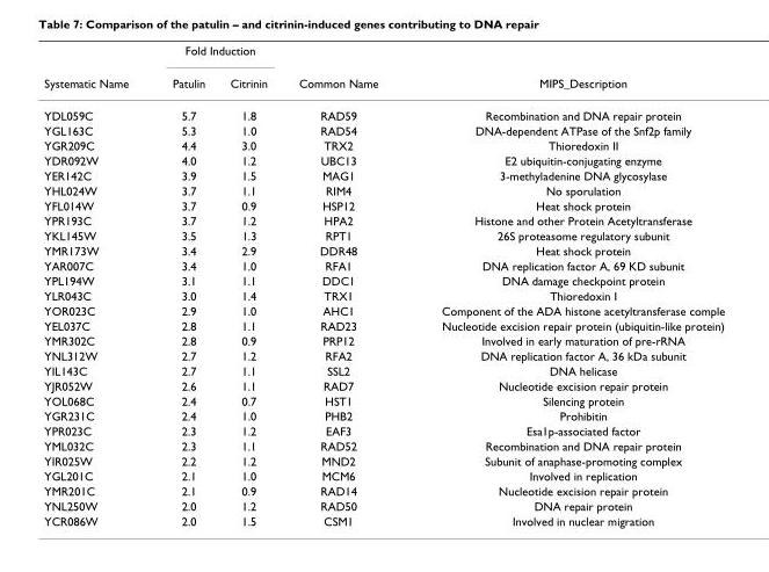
<table><thead><tr><td rowspan="2">Systematic Name</td><td colspan="2">Fold Induction</td><td rowspan="2">Common Name</td><td rowspan="2">MIPS_Description</td></tr><tr><td>Patulin</td><td>Citrinin</td></tr></thead><tbody><tr><td>YDL059C</td><td>5.7</td><td>1.8</td><td>RAD59</td><td>Recombination and DNA repair protein</td></tr><tr><td>YGL163C</td><td>5.3</td><td>1.0</td><td>RAD54</td><td>DNA-dependent ATPase of the Snf2p family</td></tr><tr><td>YGR209C</td><td>4.4</td><td>3.0</td><td>TRX2</td><td>Thioredoxin II</td></tr><tr><td>YDR092W</td><td>4.0</td><td>1.2</td><td>UBC13</td><td>E2 ubiquitin-conjugating enzyme</td></tr><tr><td>YER142C</td><td>3.9</td><td>1.5</td><td>MAG1</td><td>3-methyladenine DNA glycosylase</td></tr><tr><td>YHL024W</td><td>3.7</td><td>1.1</td><td>RIM4</td><td>No sporulation</td></tr><tr><td>YFL014W</td><td>3.7</td><td>0.9</td><td>HSP12</td><td>Heat shock protein</td></tr><tr><td>YPR193C</td><td>3.7</td><td>1.2</td><td>HPA2</td><td>Histone and other Protein Acetyltransferase</td></tr><tr><td>YKL145W</td><td>3.5</td><td>1.3</td><td>RPT1</td><td>26S proteasome regulatory subunit</td></tr><tr><td>YMR173W</td><td>3.4</td><td>2.9</td><td>DDR48</td><td>Heat shock protein</td></tr><tr><td>YAR007C</td><td>3.4</td><td>1.0</td><td>RFA1</td><td>DNA replication factor A, 69 KD subunit</td></tr><tr><td>YPL194W</td><td>3.1</td><td>1.1</td><td>DDC1</td><td>DNA damage checkpoint protein</td></tr><tr><td>YLR043C</td><td>3.0</td><td>1.4</td><td>TRX1</td><td>Thioredoxin I</td></tr><tr><td>YOR023C</td><td>2.9</td><td>1.0</td><td>AHC1</td><td>Component of the ADA histone acetyltransferase comple</td></tr><tr><td>YEL037C</td><td>2.8</td><td>1.1</td><td>RAD23</td><td>Nucleotide excision repair protein (ubiquitin-like protein)</td></tr><tr><td>YMR302C</td><td>2.8</td><td>0.9</td><td>PRP12</td><td>Involved in early maturation of pre-rRNA</td></tr><tr><td>YNL312W</td><td>2.7</td><td>1.2</td><td>RFA2</td><td>DNA replication factor A, 36 kDa subunit</td></tr><tr><td>YIL143C</td><td>2.7</td><td>1.1</td><td>SSL2</td><td>DNA helicase</td></tr><tr><td>YJR052W</td><td>2.6</td><td>1.1</td><td>RAD7</td><td>Nucleotide excision repair protein</td></tr><tr><td>YOL068C</td><td>2.4</td><td>0.7</td><td>HST1</td><td>Silencing protein</td></tr><tr><td>YGR231C</td><td>2.4</td><td>1.0</td><td>PHB2</td><td>Prohibitin</td></tr><tr><td>YPR023C</td><td>2.3</td><td>1.2</td><td>EAF3</td><td>Esa1p-associated factor</td></tr><tr><td>YML032C</td><td>2.3</td><td>1.1</td><td>RAD52</td><td>Recombination and DNA repair protein</td></tr><tr><td>YIR025W</td><td>2.2</td><td>1.2</td><td>MND2</td><td>Subunit of anaphase-promoting complex</td></tr><tr><td>YGL201C</td><td>2.1</td><td>1.0</td><td>MCM6</td><td>Involved in replication</td></tr><tr><td>YMR201C</td><td>2.1</td><td>0.9</td><td>RAD14</td><td>Nucleotide excision repair protein</td></tr><tr><td>YNL250W</td><td>2.0</td><td>1.2</td><td>RAD50</td><td>DNA repair protein</td></tr><tr><td>YCR086W</td><td>2.0</td><td>1.5</td><td>CSM1</td><td>Involved in nuclear migration</td></tr></tbody></table>